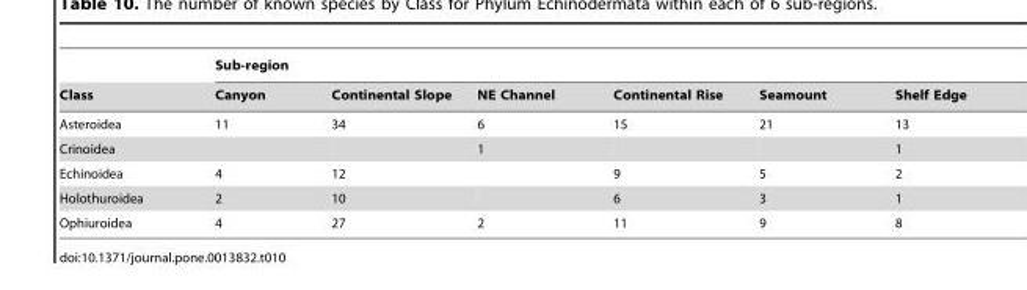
<table><thead><tr><td rowspan="2">Class</td><td colspan="6">Sub-region</td></tr><tr><td>Canyon</td><td>Continental Slope</td><td>NE Channel</td><td>Continental Rise</td><td>Seamount</td><td>Shelf Edge</td></tr></thead><tbody><tr><td>Asteroidea</td><td>11</td><td>34</td><td>6</td><td>15</td><td>21</td><td>13</td></tr><tr><td>Crinoidea</td><td></td><td></td><td>1</td><td></td><td></td><td>1</td></tr><tr><td>Echinoidea</td><td>4</td><td>12</td><td></td><td>9</td><td>5</td><td>2</td></tr><tr><td>Holothuroidea</td><td>2</td><td>10</td><td></td><td>6</td><td>3</td><td>1</td></tr><tr><td>Ophiuroidea</td><td>4</td><td>27</td><td>2</td><td>11</td><td>9</td><td>8</td></tr></tbody></table>